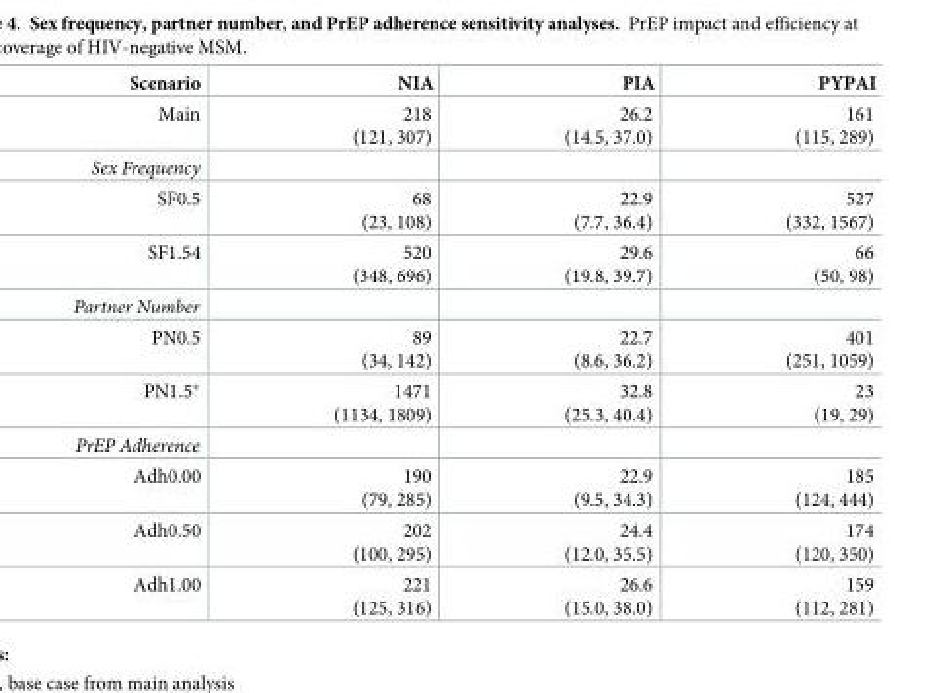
<table><thead><tr><td>Scenario</td><td>NIA</td><td>PIA</td><td>PYPAI</td></tr></thead><tbody><tr><td>Main</td><td>218 (121, 307)</td><td>26.2 (14.5, 37.0)</td><td>161 (115, 289)</td></tr><tr><td colspan="4">Sex Frequency</td></tr><tr><td>SF0.5</td><td>68 (23, 108)</td><td>22.9 (7.7, 36.4)</td><td>527 (332, 1567)</td></tr><tr><td>SF1.54</td><td>520 (348, 696)</td><td>29.6 (19.8, 39.7)</td><td>66 (50, 98)</td></tr><tr><td colspan="4">Partner Number</td></tr><tr><td>PN0.5</td><td>89 (34, 142)</td><td>22.7 (8.6, 36.2)</td><td>401 (251, 1059)</td></tr><tr><td>PN1.5*</td><td>1471 (1134, 1809)</td><td>32.8 (25.3, 40.4)</td><td>23 (19, 29)</td></tr><tr><td colspan="4">PrEP Adherence</td></tr><tr><td>Adh0.00</td><td>190 (79, 285)</td><td>22.9 (9.5, 34.3)</td><td>185 (124, 444)</td></tr><tr><td>Adh0.50</td><td>202 (100, 295)</td><td>24.4 (12.0, 35.5)</td><td>174 (120, 350)</td></tr><tr><td>Adh1.00</td><td>221 (125, 316)</td><td>26.6 (15.0, 38.0)</td><td>159 (112, 281)</td></tr></tbody></table>